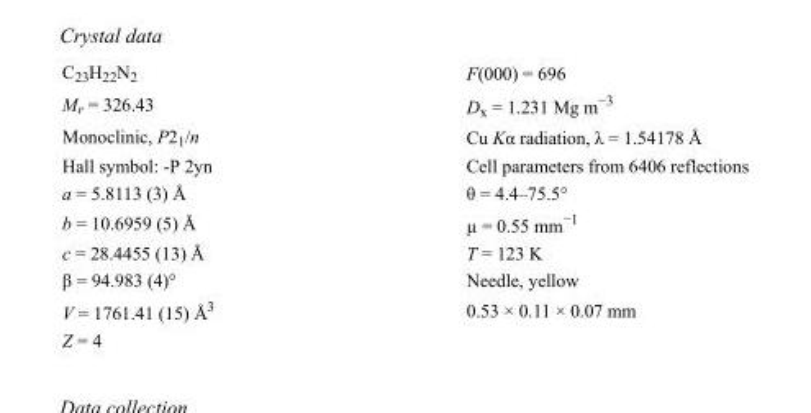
<table><tbody><tr><td>C<sub>23</sub>H<sub>22</sub>N<sub>2</sub></td><td>F(000) = 696</td></tr><tr><td>M<sub>r</sub> = 326.43</td><td>D<sub>x</sub> = 1.231 Mg m<sup>−3</sup></td></tr><tr><td>Monoclinic, P2<sub>1</sub>/n</td><td>Cu Kα radiation, λ = 1.54178 Å</td></tr><tr><td>Hall symbol: -P 2yn</td><td>Cell parameters from 6406 reflections</td></tr><tr><td>a = 5.8113 (3) Å</td><td>θ = 4.4–75.5°</td></tr><tr><td>b = 10.6959 (5) Å</td><td>µ = 0.55 mm<sup>−1</sup></td></tr><tr><td>c = 28.4455 (13) Å</td><td>T = 123 K</td></tr><tr><td>β = 94.983 (4)°</td><td>Needle, yellow</td></tr><tr><td>V = 1761.41 (15) Å<sup>3</sup></td><td>0.53 × 0.11 × 0.07 mm</td></tr><tr><td>Z = 4</td><td></td></tr></tbody></table>